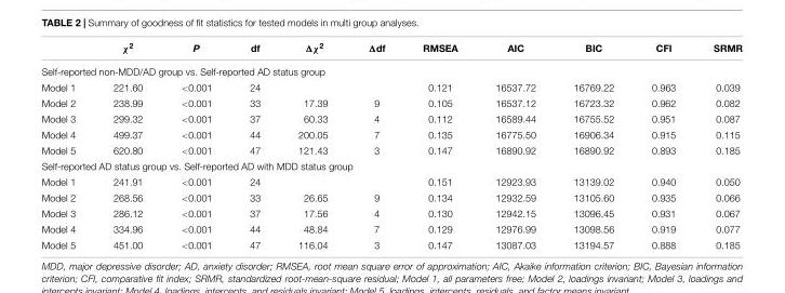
<table><thead><tr><td></td><td>χ<sup>2</sup></td><td>P</td><td>df</td><td>Δχ<sup>2</sup></td><td>Δdf</td><td>RMSEA</td><td>AIC</td><td>BIC</td><td>CFI</td><td>SRMR</td></tr></thead><tbody><tr><td colspan="11">Self-reported non-MDD/AD group vs. Self-reported AD status group</td></tr><tr><td>Model 1</td><td>221.60</td><td>&lt;0.001</td><td>24</td><td></td><td></td><td>0.121</td><td>16537.72</td><td>16769.22</td><td>0.963</td><td>0.039</td></tr><tr><td>Model 2</td><td>238.99</td><td>&lt;0.001</td><td>33</td><td>17.39</td><td>9</td><td>0.105</td><td>16537.12</td><td>16723.32</td><td>0.962</td><td>0.082</td></tr><tr><td>Model 3</td><td>299.32</td><td>&lt;0.001</td><td>37</td><td>60.33</td><td>4</td><td>0.112</td><td>16589.44</td><td>16755.52</td><td>0.951</td><td>0.087</td></tr><tr><td>Model 4</td><td>499.37</td><td>&lt;0.001</td><td>44</td><td>200.05</td><td>7</td><td>0.135</td><td>16775.50</td><td>16906.34</td><td>0.915</td><td>0.115</td></tr><tr><td>Model 5</td><td>620.80</td><td>&lt;0.001</td><td>47</td><td>121.43</td><td>3</td><td>0.147</td><td>16890.92</td><td>16890.92</td><td>0.893</td><td>0.185</td></tr><tr><td colspan="11">Self-reported AD status group vs. Self-reported AD with MDD status group</td></tr><tr><td>Model 1</td><td>241.91</td><td>&lt;0.001</td><td>24</td><td></td><td></td><td>0.151</td><td>12923.93</td><td>13139.02</td><td>0.940</td><td>0.050</td></tr><tr><td>Model 2</td><td>268.56</td><td>&lt;0.001</td><td>33</td><td>26.65</td><td>9</td><td>0.134</td><td>12932.59</td><td>13105.60</td><td>0.935</td><td>0.066</td></tr><tr><td>Model 3</td><td>286.12</td><td>&lt;0.001</td><td>37</td><td>17.56</td><td>4</td><td>0.130</td><td>12942.15</td><td>13096.45</td><td>0.931</td><td>0.067</td></tr><tr><td>Model 4</td><td>334.96</td><td>&lt;0.001</td><td>44</td><td>48.84</td><td>7</td><td>0.129</td><td>12976.99</td><td>13098.56</td><td>0.919</td><td>0.077</td></tr><tr><td>Model 5</td><td>451.00</td><td>&lt;0.001</td><td>47</td><td>116.04</td><td>3</td><td>0.147</td><td>13087.03</td><td>13194.57</td><td>0.888</td><td>0.185</td></tr></tbody></table>